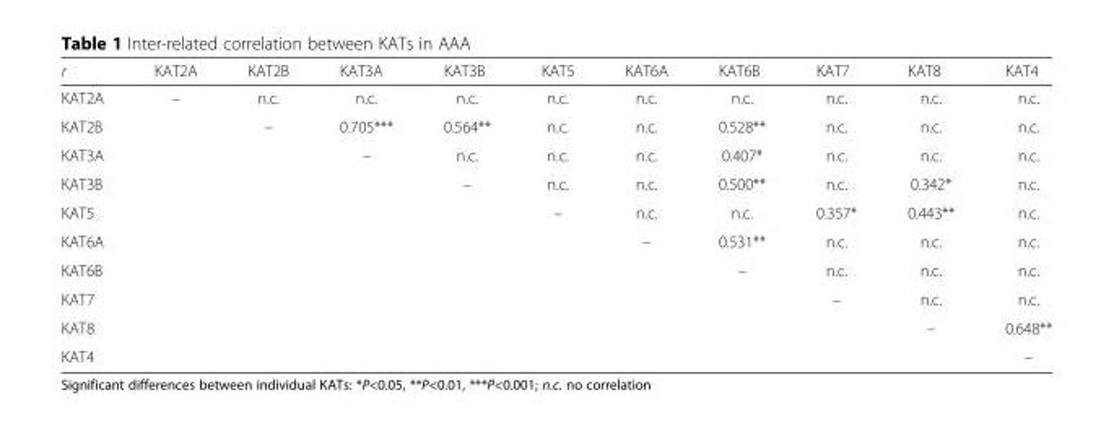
<table><thead><tr><td>r</td><td>KAT2A</td><td>KAT2B</td><td>KAT3A</td><td>KAT3B</td><td>KAT5</td><td>KAT6A</td><td>KAT6B</td><td>KAT7</td><td>KAT8</td><td>KAT4</td></tr></thead><tbody><tr><td>KAT2A</td><td>–</td><td>n.c.</td><td>n.c.</td><td>n.c.</td><td>n.c.</td><td>n.c.</td><td>n.c.</td><td>n.c.</td><td>n.c.</td><td>n.c.</td></tr><tr><td>KAT2B</td><td></td><td>–</td><td>0.705***</td><td>0.564**</td><td>n.c.</td><td>n.c.</td><td>0.528**</td><td>n.c.</td><td>n.c.</td><td>n.c.</td></tr><tr><td>KAT3A</td><td></td><td></td><td>–</td><td>n.c.</td><td>n.c.</td><td>n.c.</td><td>0.407*</td><td>n.c.</td><td>n.c.</td><td>n.c.</td></tr><tr><td>KAT3B</td><td></td><td></td><td></td><td>–</td><td>n.c.</td><td>n.c.</td><td>0.500**</td><td>n.c.</td><td>0.342*</td><td>n.c.</td></tr><tr><td>KAT5</td><td></td><td></td><td></td><td></td><td>–</td><td>n.c.</td><td>n.c.</td><td>0.357*</td><td>0.443**</td><td>n.c.</td></tr><tr><td>KAT6A</td><td></td><td></td><td></td><td></td><td></td><td>–</td><td>0.531**</td><td>n.c.</td><td>n.c.</td><td>n.c.</td></tr><tr><td>KAT6B</td><td></td><td></td><td></td><td></td><td></td><td></td><td>–</td><td>n.c.</td><td>n.c.</td><td>n.c.</td></tr><tr><td>KAT7</td><td></td><td></td><td></td><td></td><td></td><td></td><td></td><td>–</td><td>n.c.</td><td>n.c.</td></tr><tr><td>KAT8</td><td></td><td></td><td></td><td></td><td></td><td></td><td></td><td></td><td>–</td><td>0.648**</td></tr><tr><td>KAT4</td><td></td><td></td><td></td><td></td><td></td><td></td><td></td><td></td><td></td><td>–</td></tr></tbody></table>